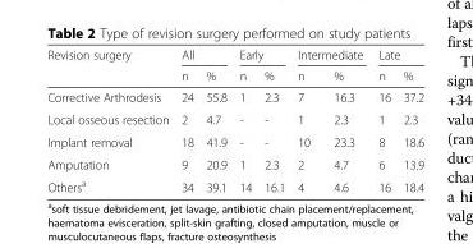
<table><thead><tr><td rowspan="2">Revision surgery</td><td colspan="2">All</td><td colspan="2">Early</td><td colspan="2">Intermediate</td><td colspan="2">Late</td></tr><tr><td>n</td><td>%</td><td>n</td><td>%</td><td>n</td><td>%</td><td>n</td><td>%</td></tr></thead><tbody><tr><td>Corrective Arthrodesis</td><td>24</td><td>55.8</td><td>1</td><td>2.3</td><td>7</td><td>16.3</td><td>16</td><td>37.2</td></tr><tr><td>Local osseous resection</td><td>2</td><td>4.7</td><td>-</td><td>-</td><td>1</td><td>2.3</td><td>1</td><td>2.3</td></tr><tr><td>Implant removal</td><td>18</td><td>41.9</td><td>-</td><td>-</td><td>10</td><td>23.3</td><td>8</td><td>18.6</td></tr><tr><td>Amputation</td><td>9</td><td>20.9</td><td>1</td><td>2.3</td><td>2</td><td>4.7</td><td>6</td><td>13.9</td></tr><tr><td>Others<sup>a</sup></td><td>34</td><td>39.1</td><td>14</td><td>16.1</td><td>4</td><td>4.6</td><td>16</td><td>18.4</td></tr></tbody></table>